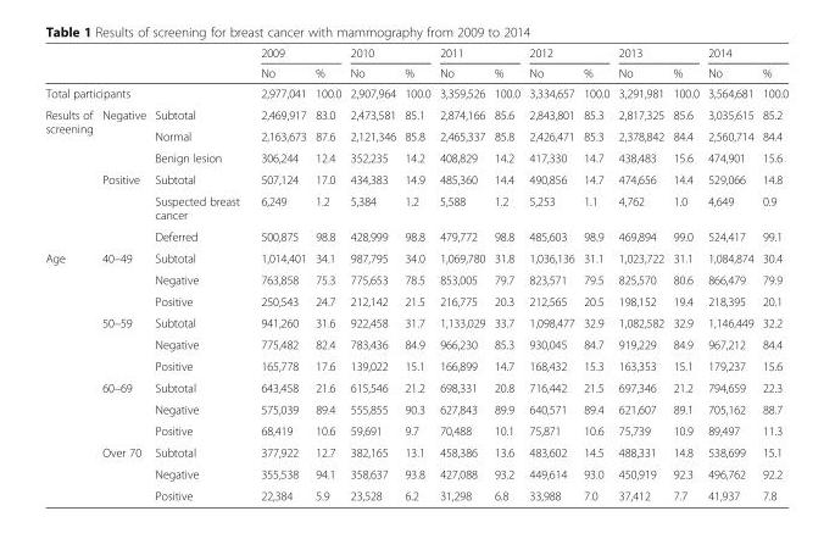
<table><thead><tr><td rowspan="2"></td><td rowspan="2"></td><td rowspan="2"></td><td colspan="2">2009</td><td colspan="2">2010</td><td colspan="2">2011</td><td colspan="2">2012</td><td colspan="2">2013</td><td colspan="2">2014</td></tr><tr><td>No</td><td>%</td><td>No</td><td>%</td><td>No</td><td>%</td><td>No</td><td>%</td><td>No</td><td>%</td><td>No</td><td>%</td></tr></thead><tbody><tr><td colspan="3">Total participants</td><td>2,977,041</td><td>100.0</td><td>2,907,964</td><td>100.0</td><td>3,359,526</td><td>100.0</td><td>3,334,657</td><td>100.0</td><td>3,291,981</td><td>100.0</td><td>3,564,681</td><td>100.0</td></tr><tr><td rowspan="6">Results of screening</td><td rowspan="3">Negative</td><td>Subtotal</td><td>2,469,917</td><td>83.0</td><td>2,473,581</td><td>85.1</td><td>2,874,166</td><td>85.6</td><td>2,843,801</td><td>85.3</td><td>2,817,325</td><td>85.6</td><td>3,035,615</td><td>85.2</td></tr><tr><td>Normal</td><td>2,163,673</td><td>87.6</td><td>2,121,346</td><td>85.8</td><td>2,465,337</td><td>85.8</td><td>2,426,471</td><td>85.3</td><td>2,378,842</td><td>84.4</td><td>2,560,714</td><td>84.4</td></tr><tr><td>Benign lesion</td><td>306,244</td><td>12.4</td><td>352,235</td><td>14.2</td><td>408,829</td><td>14.2</td><td>417,330</td><td>14.7</td><td>438,483</td><td>15.6</td><td>474,901</td><td>15.6</td></tr><tr><td rowspan="3">Positive</td><td>Subtotal</td><td>507,124</td><td>17.0</td><td>434,383</td><td>14.9</td><td>485,360</td><td>14.4</td><td>490,856</td><td>14.7</td><td>474,656</td><td>14.4</td><td>529,066</td><td>14.8</td></tr><tr><td>Suspected breast cancer</td><td>6,249</td><td>1.2</td><td>5,384</td><td>1.2</td><td>5,588</td><td>1.2</td><td>5,253</td><td>1.1</td><td>4,762</td><td>1.0</td><td>4,649</td><td>0.9</td></tr><tr><td>Deferred</td><td>500,875</td><td>98.8</td><td>428,999</td><td>98.8</td><td>479,772</td><td>98.8</td><td>485,603</td><td>98.9</td><td>469,894</td><td>99.0</td><td>524,417</td><td>99.1</td></tr><tr><td rowspan="12">Age</td><td rowspan="3">40–49</td><td>Subtotal</td><td>1,014,401</td><td>34.1</td><td>987,795</td><td>34.0</td><td>1,069,780</td><td>31.8</td><td>1,036,136</td><td>31.1</td><td>1,023,722</td><td>31.1</td><td>1,084,874</td><td>30.4</td></tr><tr><td>Negative</td><td>763,858</td><td>75.3</td><td>775,653</td><td>78.5</td><td>853,005</td><td>79.7</td><td>823,571</td><td>79.5</td><td>825,570</td><td>80.6</td><td>866,479</td><td>79.9</td></tr><tr><td>Positive</td><td>250,543</td><td>24.7</td><td>212,142</td><td>21.5</td><td>216,775</td><td>20.3</td><td>212,565</td><td>20.5</td><td>198,152</td><td>19.4</td><td>218,395</td><td>20.1</td></tr><tr><td rowspan="3">50–59</td><td>Subtotal</td><td>941,260</td><td>31.6</td><td>922,458</td><td>31.7</td><td>1,133,029</td><td>33.7</td><td>1,098,477</td><td>32.9</td><td>1,082,582</td><td>32.9</td><td>1,146,449</td><td>32.2</td></tr><tr><td>Negative</td><td>775,482</td><td>82.4</td><td>783,436</td><td>84.9</td><td>966,230</td><td>85.3</td><td>930,045</td><td>84.7</td><td>919,229</td><td>84.9</td><td>967,212</td><td>84.4</td></tr><tr><td>Positive</td><td>165,778</td><td>17.6</td><td>139,022</td><td>15.1</td><td>166,899</td><td>14.7</td><td>168,432</td><td>15.3</td><td>163,353</td><td>15.1</td><td>179,237</td><td>15.6</td></tr><tr><td rowspan="3">60–69</td><td>Subtotal</td><td>643,458</td><td>21.6</td><td>615,546</td><td>21.2</td><td>698,331</td><td>20.8</td><td>716,442</td><td>21.5</td><td>697,346</td><td>21.2</td><td>794,659</td><td>22.3</td></tr><tr><td>Negative</td><td>575,039</td><td>89.4</td><td>555,855</td><td>90.3</td><td>627,843</td><td>89.9</td><td>640,571</td><td>89.4</td><td>621,607</td><td>89.1</td><td>705,162</td><td>88.7</td></tr><tr><td>Positive</td><td>68,419</td><td>10.6</td><td>59,691</td><td>9.7</td><td>70,488</td><td>10.1</td><td>75,871</td><td>10.6</td><td>75,739</td><td>10.9</td><td>89,497</td><td>11.3</td></tr><tr><td rowspan="3">Over 70</td><td>Subtotal</td><td>377,922</td><td>12.7</td><td>382,165</td><td>13.1</td><td>458,386</td><td>13.6</td><td>483,602</td><td>14.5</td><td>488,331</td><td>14.8</td><td>538,699</td><td>15.1</td></tr><tr><td>Negative</td><td>355,538</td><td>94.1</td><td>358,637</td><td>93.8</td><td>427,088</td><td>93.2</td><td>449,614</td><td>93.0</td><td>450,919</td><td>92.3</td><td>496,762</td><td>92.2</td></tr><tr><td>Positive</td><td>22,384</td><td>5.9</td><td>23,528</td><td>6.2</td><td>31,298</td><td>6.8</td><td>33,988</td><td>7.0</td><td>37,412</td><td>7.7</td><td>41,937</td><td>7.8</td></tr></tbody></table>